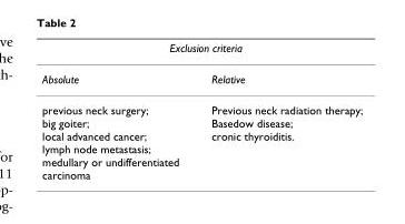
<table><thead><tr><td colspan="2">Exclusion criteria</td></tr><tr><td>Absolute</td><td>Relative</td></tr></thead><tbody><tr><td>previous neck surgery; big goiter; local advanced cancer; lymph node metastasis; medullary or undifferentiated carcinoma</td><td>Previous neck radiation therapy; Basedow disease; cronic thyroiditis.</td></tr></tbody></table>